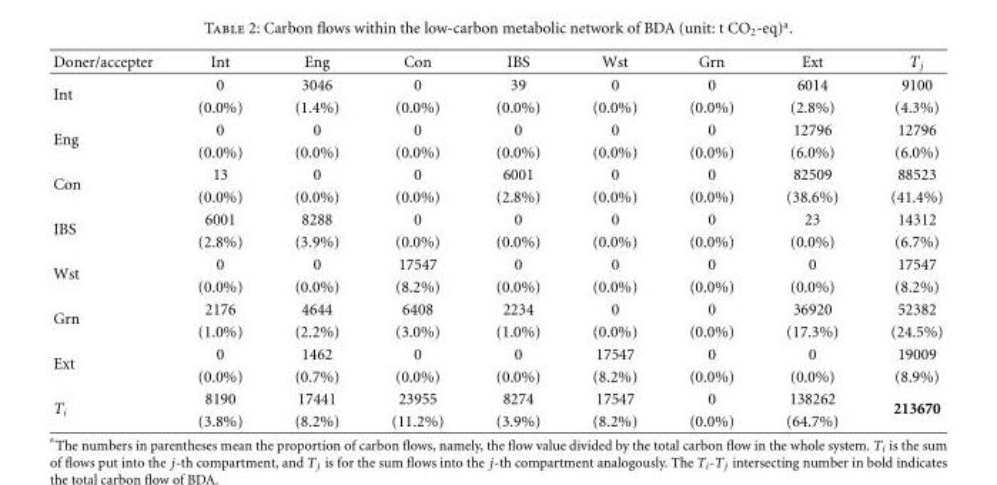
<table><thead><tr><td>Doner/accepter</td><td>Int</td><td>Eng</td><td>Con</td><td>IBS</td><td>Wst</td><td>Grn</td><td>Ext</td><td>T<sub>j</sub></td></tr></thead><tbody><tr><td rowspan="2">Int</td><td>0</td><td>3046</td><td>0</td><td>39</td><td>0</td><td>0</td><td>6014</td><td>9100</td></tr><tr><td>(0.0%)</td><td>(1.4%)</td><td>(0.0%)</td><td>(0.0%)</td><td>(0.0%)</td><td>(0.0%)</td><td>(2.8%)</td><td>(4.3%)</td></tr><tr><td rowspan="2">Eng</td><td>0</td><td>0</td><td>0</td><td>0</td><td>0</td><td>0</td><td>12796</td><td>12796</td></tr><tr><td>(0.0%)</td><td>(0.0%)</td><td>(0.0%)</td><td>(0.0%)</td><td>(0.0%)</td><td>(0.0%)</td><td>(6.0%)</td><td>(6.0%)</td></tr><tr><td rowspan="2">Con</td><td>13</td><td>0</td><td>0</td><td>6001</td><td>0</td><td>0</td><td>82509</td><td>88523</td></tr><tr><td>(0.0%)</td><td>(0.0%)</td><td>(0.0%)</td><td>(2.8%)</td><td>(0.0%)</td><td>(0.0%)</td><td>(38.6%)</td><td>(41.4%)</td></tr><tr><td rowspan="2">IBS</td><td>6001</td><td>8288</td><td>0</td><td>0</td><td>0</td><td>0</td><td>23</td><td>14312</td></tr><tr><td>(2.8%)</td><td>(3.9%)</td><td>(0.0%)</td><td>(0.0%)</td><td>(0.0%)</td><td>(0.0%)</td><td>(0.0%)</td><td>(6.7%)</td></tr><tr><td rowspan="2">Wst</td><td>0</td><td>0</td><td>17547</td><td>0</td><td>0</td><td>0</td><td>0</td><td>17547</td></tr><tr><td>(0.0%)</td><td>(0.0%)</td><td>(8.2%)</td><td>(0.0%)</td><td>(0.0%)</td><td>(0.0%)</td><td>(0.0%)</td><td>(8.2%)</td></tr><tr><td rowspan="2">Grn</td><td>2176</td><td>4644</td><td>6408</td><td>2234</td><td>0</td><td>0</td><td>36920</td><td>52382</td></tr><tr><td>(1.0%)</td><td>(2.2%)</td><td>(3.0%)</td><td>(1.0%)</td><td>(0.0%)</td><td>(0.0%)</td><td>(17.3%)</td><td>(24.5%)</td></tr><tr><td rowspan="2">Ext</td><td>0</td><td>1462</td><td>0</td><td>0</td><td>17547</td><td>0</td><td>0</td><td>19009</td></tr><tr><td>(0.0%)</td><td>(0.7%)</td><td>(0.0%)</td><td>(0.0%)</td><td>(8.2%)</td><td>(0.0%)</td><td>(0.0%)</td><td>(8.9%)</td></tr><tr><td rowspan="2">T<sub>i</sub></td><td>8190</td><td>17441</td><td>23955</td><td>8274</td><td>17547</td><td>0</td><td>138262</td><td rowspan="2">213670</td></tr><tr><td>(3.8%)</td><td>(8.2%)</td><td>(11.2%)</td><td>(3.9%)</td><td>(8.2%)</td><td>(0.0%)</td><td>(64.7%)</td></tr></tbody></table>